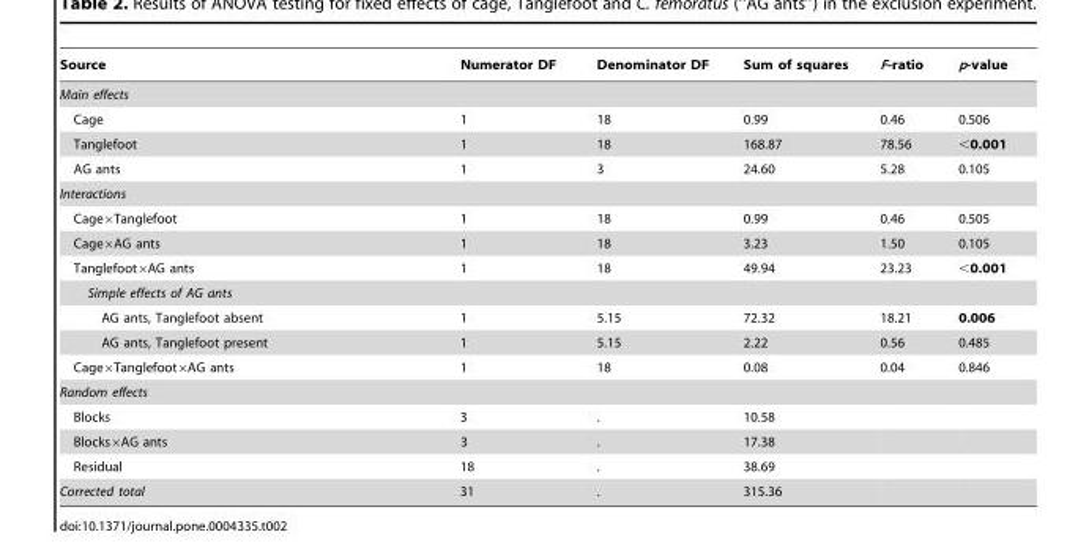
<table><thead><tr><td>Source</td><td>Numerator DF</td><td>Denominator DF</td><td>Sum of squares</td><td>F-ratio</td><td>p-value</td></tr></thead><tbody><tr><td colspan="6">Main effects</td></tr><tr><td>Cage</td><td>1</td><td>18</td><td>0.99</td><td>0.46</td><td>0.506</td></tr><tr><td>Tanglefoot</td><td>1</td><td>18</td><td>168.87</td><td>78.56</td><td>&lt;0.001</td></tr><tr><td>AG ants</td><td>1</td><td>3</td><td>24.60</td><td>5.28</td><td>0.105</td></tr><tr><td colspan="6">Interactions</td></tr><tr><td>Cage×Tanglefoot</td><td>1</td><td>18</td><td>0.99</td><td>0.46</td><td>0.505</td></tr><tr><td>Cage×AG ants</td><td>1</td><td>18</td><td>3.23</td><td>1.50</td><td>0.105</td></tr><tr><td>Tanglefoot×AG ants</td><td>1</td><td>18</td><td>49.94</td><td>23.23</td><td>&lt;0.001</td></tr><tr><td colspan="6">Simple effects of AG ants</td></tr><tr><td>AG ants, Tanglefoot absent</td><td>1</td><td>5.15</td><td>72.32</td><td>18.21</td><td>0.006</td></tr><tr><td>AG ants, Tanglefoot present</td><td>1</td><td>5.15</td><td>2.22</td><td>0.56</td><td>0.485</td></tr><tr><td>Cage×Tanglefoot×AG ants</td><td>1</td><td>18</td><td>0.08</td><td>0.04</td><td>0.846</td></tr><tr><td colspan="6">Random effects</td></tr><tr><td>Blocks</td><td>3</td><td>.</td><td>10.58</td><td></td><td></td></tr><tr><td>Blocks×AG ants</td><td>3</td><td>.</td><td>17.38</td><td></td><td></td></tr><tr><td>Residual</td><td>18</td><td>.</td><td>38.69</td><td></td><td></td></tr><tr><td>Corrected total</td><td>31</td><td>.</td><td>315.36</td><td></td><td></td></tr></tbody></table>